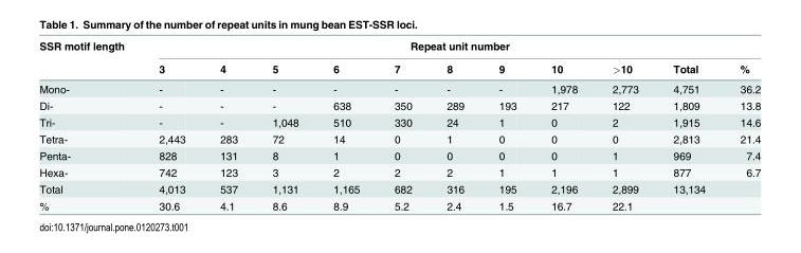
<table><thead><tr><td rowspan="2">SSR motif length</td><td colspan="11">Repeat unit number</td></tr><tr><td>3</td><td>4</td><td>5</td><td>6</td><td>7</td><td>8</td><td>9</td><td>10</td><td>&gt;10</td><td>Total</td><td>%</td></tr></thead><tbody><tr><td>Mono-</td><td>-</td><td>-</td><td>-</td><td>-</td><td>-</td><td>-</td><td>-</td><td>1,978</td><td>2,773</td><td>4,751</td><td>36.2</td></tr><tr><td>Di-</td><td>-</td><td>-</td><td>-</td><td>638</td><td>350</td><td>289</td><td>193</td><td>217</td><td>122</td><td>1,809</td><td>13.8</td></tr><tr><td>Tri-</td><td>-</td><td>-</td><td>1,048</td><td>510</td><td>330</td><td>24</td><td>1</td><td>0</td><td>2</td><td>1,915</td><td>14.6</td></tr><tr><td>Tetra-</td><td>2,443</td><td>283</td><td>72</td><td>14</td><td>0</td><td>1</td><td>0</td><td>0</td><td>0</td><td>2,813</td><td>21.4</td></tr><tr><td>Penta-</td><td>828</td><td>131</td><td>8</td><td>1</td><td>0</td><td>0</td><td>0</td><td>0</td><td>1</td><td>969</td><td>7.4</td></tr><tr><td>Hexa-</td><td>742</td><td>123</td><td>3</td><td>2</td><td>2</td><td>2</td><td>1</td><td>1</td><td>1</td><td>877</td><td>6.7</td></tr><tr><td>Total</td><td>4,013</td><td>537</td><td>1,131</td><td>1,165</td><td>682</td><td>316</td><td>195</td><td>2,196</td><td>2,899</td><td>13,134</td><td></td></tr><tr><td>%</td><td>30.6</td><td>4.1</td><td>8.6</td><td>8.9</td><td>5.2</td><td>2.4</td><td>1.5</td><td>16.7</td><td>22.1</td><td></td><td></td></tr></tbody></table>